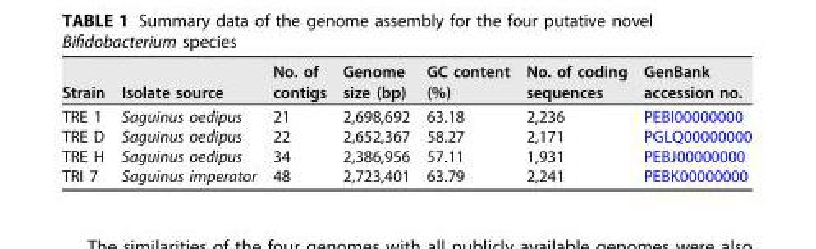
<table><thead><tr><td>Strain</td><td>Isolate source</td><td>No. of contigs</td><td>Genome size (bp)</td><td>GC content (%)</td><td>No. of coding sequences</td><td>GenBank accession no.</td></tr></thead><tbody><tr><td>TRE 1</td><td>Saguinus oedipus</td><td>21</td><td>2,698,692</td><td>63.18</td><td>2,236</td><td>PEBI00000000</td></tr><tr><td>TRE D</td><td>Saguinus oedipus</td><td>22</td><td>2,652,367</td><td>58.27</td><td>2,171</td><td>PGLQ00000000</td></tr><tr><td>TRE H</td><td>Saguinus oedipus</td><td>34</td><td>2,386,956</td><td>57.11</td><td>1,931</td><td>PEBJ00000000</td></tr><tr><td>TRI 7</td><td>Saguinus imperator</td><td>48</td><td>2,723,401</td><td>63.79</td><td>2,241</td><td>PEBK00000000</td></tr></tbody></table>